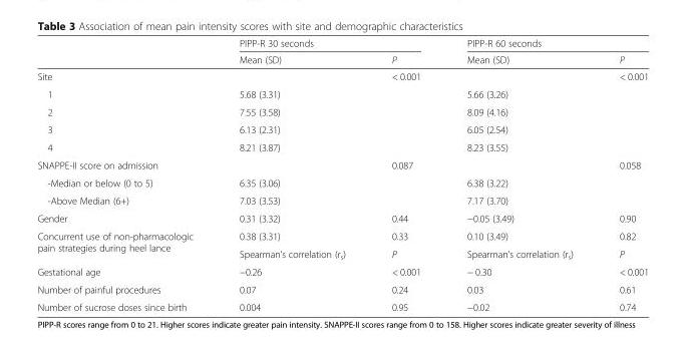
<table><thead><tr><td rowspan="2"></td><td colspan="2">PIPP-R 30 seconds</td><td colspan="2">PIPP-R 60 seconds</td></tr><tr><td>Mean (SD)</td><td>P</td><td>Mean (SD)</td><td>P</td></tr></thead><tbody><tr><td>Site</td><td></td><td>&lt; 0.001</td><td></td><td>&lt; 0.001</td></tr><tr><td>1</td><td>5.68 (3.31)</td><td></td><td>5.66 (3.26)</td><td></td></tr><tr><td>2</td><td>7.55 (3.58)</td><td></td><td>8.09 (4.16)</td><td></td></tr><tr><td>3</td><td>6.13 (2.31)</td><td></td><td>6.05 (2.54)</td><td></td></tr><tr><td>4</td><td>8.21 (3.87)</td><td></td><td>8.23 (3.55)</td><td></td></tr><tr><td>SNAPPE-II score on admission</td><td></td><td>0.087</td><td></td><td>0.058</td></tr><tr><td>-Median or below (0 to 5)</td><td>6.35 (3.06)</td><td></td><td>6.38 (3.22)</td><td></td></tr><tr><td>-Above Median (6+)</td><td>7.03 (3.53)</td><td></td><td>7.17 (3.70)</td><td></td></tr><tr><td>Gender</td><td>0.31 (3.32)</td><td>0.44</td><td>−0.05 (3.49)</td><td>0.90</td></tr><tr><td rowspan="2">Concurrent use of non-pharmacologic pain strategies during heel lance</td><td>0.38 (3.31)</td><td>0.33</td><td>0.10 (3.49)</td><td>0.82</td></tr><tr><td>Spearman’s correlation (r<sub>s</sub>)</td><td>P</td><td>Spearman’s correlation (r<sub>s</sub>)</td><td>P</td></tr><tr><td>Gestational age</td><td>−0.26</td><td>&lt; 0.001</td><td>− 0.30</td><td>&lt; 0.001</td></tr><tr><td>Number of painful procedures</td><td>0.07</td><td>0.24</td><td>0.03</td><td>0.61</td></tr><tr><td>Number of sucrose doses since birth</td><td>0.004</td><td>0.95</td><td>−0.02</td><td>0.74</td></tr></tbody></table>